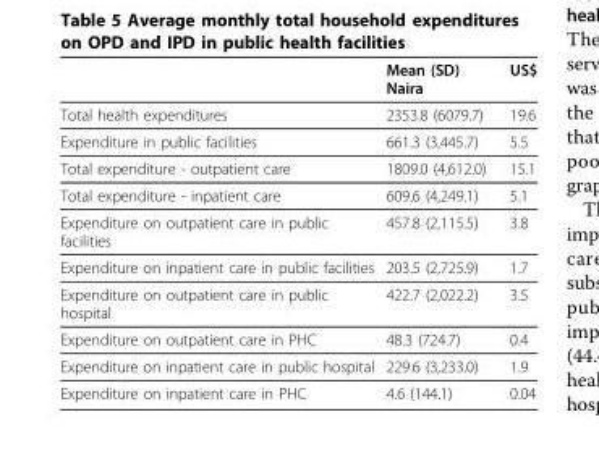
<table><thead><tr><td></td><td>Mean (SD) Naira</td><td>US$</td></tr></thead><tbody><tr><td>Total health expenditures</td><td>2353.8 (6079.7)</td><td>19.6</td></tr><tr><td>Expenditure in public facilities</td><td>661.3 (3,445.7)</td><td>5.5</td></tr><tr><td>Total expenditure - outpatient care</td><td>1809.0 (4,612.0)</td><td>15.1</td></tr><tr><td>Total expenditure - inpatient care</td><td>609.6 (4,249.1)</td><td>5.1</td></tr><tr><td>Expenditure on outpatient care in public facilities</td><td>457.8 (2,115.5)</td><td>3.8</td></tr><tr><td>Expenditure on inpatient care in public facilities</td><td>203.5 (2,725.9)</td><td>1.7</td></tr><tr><td>Expenditure on outpatient care in public hospital</td><td>422.7 (2,022.2)</td><td>3.5</td></tr><tr><td>Expenditure on outpatient care in PHC</td><td>48.3 (724.7)</td><td>0.4</td></tr><tr><td>Expenditure on inpatient care in public hospital</td><td>229.6 (3,233.0)</td><td>1.9</td></tr><tr><td>Expenditure on inpatient care in PHC</td><td>4.6 (144.1)</td><td>0.04</td></tr></tbody></table>